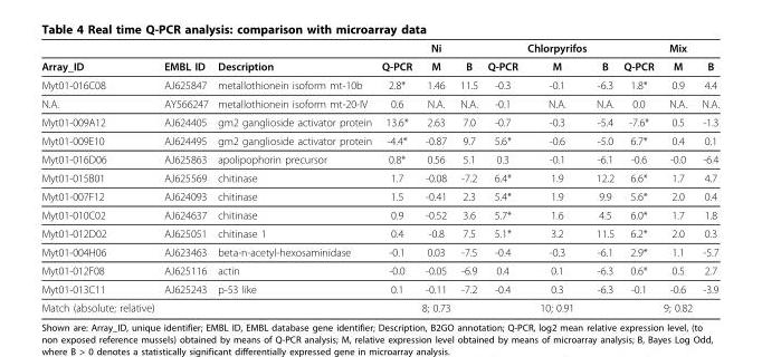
<table><thead><tr><td></td><td></td><td></td><td></td><td>Ni</td><td></td><td></td><td>Chlorpyrifos</td><td></td><td></td><td>Mix</td><td></td></tr></thead><tbody><tr><td>Array_ID</td><td>EMBL ID</td><td>Description</td><td>Q-PCR</td><td>M</td><td>B</td><td>Q-PCR</td><td>M</td><td>B</td><td>Q-PCR</td><td>M</td><td>B</td></tr><tr><td>Myt01-016C08</td><td>AJ625847</td><td>metallothionein isoform mt-10b</td><td>2.8*</td><td>1.46</td><td>11.5</td><td>-0.3</td><td>-0.1</td><td>-6.3</td><td>1.8*</td><td>0.9</td><td>4.4</td></tr><tr><td>N.A.</td><td>AY566247</td><td>metallothionein isoform mt-20-IV</td><td>0.6</td><td>N.A.</td><td>N.A.</td><td>-0.1</td><td>N.A.</td><td>N.A.</td><td>0.0</td><td>N.A.</td><td>N.A.</td></tr><tr><td>Myt01-009A12</td><td>AJ624405</td><td>gm2 ganglioside activator protein</td><td>13.6*</td><td>2.63</td><td>7.0</td><td>-0.7</td><td>-0.3</td><td>-5.4</td><td>-7.6*</td><td>0.5</td><td>-1.3</td></tr><tr><td>Myt01-009E10</td><td>AJ624495</td><td>gm2 ganglioside activator protein</td><td>-4.4*</td><td>-0.87</td><td>9.7</td><td>5.6*</td><td>-0.6</td><td>-5.0</td><td>6.7*</td><td>0.4</td><td>0.1</td></tr><tr><td>Myt01-016D06</td><td>AJ625863</td><td>apolipophorin precursor</td><td>0.8*</td><td>0.56</td><td>5.1</td><td>0.3</td><td>-0.1</td><td>-6.1</td><td>-0.6</td><td>-0.0</td><td>-6.4</td></tr><tr><td>Myt01-015B01</td><td>AJ625569</td><td>chitinase</td><td>1.7</td><td>-0.08</td><td>-7.2</td><td>6.4*</td><td>1.9</td><td>12.2</td><td>6.6*</td><td>1.7</td><td>4.7</td></tr><tr><td>Myt01-007F12</td><td>AJ624093</td><td>chitinase</td><td>1.5</td><td>-0.41</td><td>2.3</td><td>5.4*</td><td>1.9</td><td>9.9</td><td>5.6*</td><td>2.0</td><td>0.4</td></tr><tr><td>Myt01-010C02</td><td>AJ624637</td><td>chitinase</td><td>0.9</td><td>-0.52</td><td>3.6</td><td>5.7*</td><td>1.6</td><td>4.5</td><td>6.0*</td><td>1.7</td><td>1.8</td></tr><tr><td>Myt01-012D02</td><td>AJ625051</td><td>chitinase 1</td><td>0.4</td><td>-0.8</td><td>7.5</td><td>5.1*</td><td>3.2</td><td>11.5</td><td>6.2*</td><td>2.0</td><td>0.3</td></tr><tr><td>Myt01-004H06</td><td>AJ623463</td><td>beta-n-acetyl-hexosaminidase</td><td>-0.1</td><td>0.03</td><td>-7.5</td><td>-0.4</td><td>-0.3</td><td>-6.1</td><td>2.9*</td><td>1.1</td><td>-5.7</td></tr><tr><td>Myt01-012F08</td><td>AJ625116</td><td>actin</td><td>-0.0</td><td>-0.05</td><td>-6.9</td><td>0.4</td><td>0.1</td><td>-6.3</td><td>0.6*</td><td>0.5</td><td>2.7</td></tr><tr><td>Myt01-013C11</td><td>AJ625243</td><td>p-53 like</td><td>0.1</td><td>-0.11</td><td>-7.2</td><td>-0.4</td><td>0.3</td><td>-6.3</td><td>-0.1</td><td>-0.6</td><td>-3.9</td></tr><tr><td>Match (absolute; relative)</td><td></td><td></td><td></td><td>8; 0.73</td><td></td><td></td><td>10; 0.91</td><td></td><td></td><td>9; 0.82</td><td></td></tr></tbody></table>